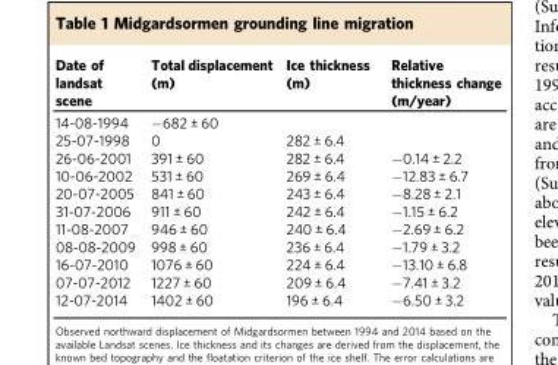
<table><thead><tr><td>Date of landsat scene</td><td>Total displacement (m)</td><td>Ice thickness (m)</td><td>Relative thickness change (m/year)</td></tr></thead><tbody><tr><td>14-08-1994</td><td>−682 ± 60</td><td></td><td></td></tr><tr><td>25-07-1998</td><td>0</td><td>282 ± 6.4</td><td></td></tr><tr><td>26-06-2001</td><td>391 ± 60</td><td>282 ± 6.4</td><td>−0.14 ± 2.2</td></tr><tr><td>10-06-2002</td><td>531 ± 60</td><td>269 ± 6.4</td><td>−12.83 ± 6.7</td></tr><tr><td>20-07-2005</td><td>841 ± 60</td><td>243 ± 6.4</td><td>−8.28 ± 2.1</td></tr><tr><td>31-07-2006</td><td>911 ± 60</td><td>242 ± 6.4</td><td>−1.15 ± 6.2</td></tr><tr><td>11-08-2007</td><td>946 ± 60</td><td>240 ± 6.4</td><td>−2.69 ± 6.2</td></tr><tr><td>08-08-2009</td><td>998 ± 60</td><td>236 ± 6.4</td><td>−1.79 ± 3.2</td></tr><tr><td>16-07-2010</td><td>1076 ± 60</td><td>224 ± 6.4</td><td>−13.10 ± 6.8</td></tr><tr><td>07-07-2012</td><td>1227 ± 60</td><td>209 ± 6.4</td><td>−7.41 ± 3.2</td></tr><tr><td>12-07-2014</td><td>1402 ± 60</td><td>196 ± 6.4</td><td>−6.50 ± 3.2</td></tr></tbody></table>